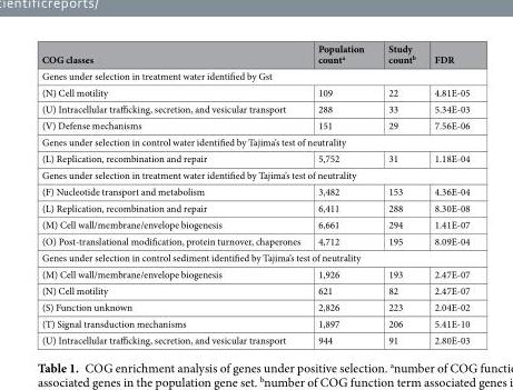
<table><thead><tr><td>COG classes</td><td>Population count<sup>a</sup></td><td>Study count<sup>b</sup></td><td>FDR</td></tr></thead><tbody><tr><td colspan="4">Genes under selection in treatment water identified by Gst</td></tr><tr><td>(N) Cell motility</td><td>109</td><td>22</td><td>4.81E-05</td></tr><tr><td>(U) Intracellular trafficking, secretion, and vesicular transport</td><td>288</td><td>33</td><td>5.34E-03</td></tr><tr><td>(V) Defense mechanisms</td><td>151</td><td>29</td><td>7.56E-06</td></tr><tr><td colspan="4">Genes under selection in control water identified by Tajima’s test of neutrality</td></tr><tr><td>(L) Replication, recombination and repair</td><td>5,752</td><td>31</td><td>1.18E-04</td></tr><tr><td colspan="4">Genes under selection in treatment water identified by Tajima’s test of neutrality</td></tr><tr><td>(F) Nucleotide transport and metabolism</td><td>3,482</td><td>153</td><td>4.36E-04</td></tr><tr><td>(L) Replication, recombination and repair</td><td>6,411</td><td>288</td><td>8.30E-08</td></tr><tr><td>(M) Cell wall/membrane/envelope biogenesis</td><td>6,661</td><td>294</td><td>1.41E-07</td></tr><tr><td>(O) Post-translational modification, protein turnover, chaperones</td><td>4,712</td><td>195</td><td>8.09E-04</td></tr><tr><td colspan="4">Genes under selection in control sediment identified by Tajima’s test of neutrality</td></tr><tr><td>(M) Cell wall/membrane/envelope biogenesis</td><td>1,926</td><td>193</td><td>2.47E-07</td></tr><tr><td>(N) Cell motility</td><td>621</td><td>82</td><td>2.47E-07</td></tr><tr><td>(S) Function unknown</td><td>2,826</td><td>223</td><td>2.04E-02</td></tr><tr><td>(T) Signal transduction mechanisms</td><td>1,897</td><td>206</td><td>5.41E-10</td></tr><tr><td>(U) Intracellular trafficking, secretion, and vesicular transport</td><td>944</td><td>91</td><td>2.80E-03</td></tr></tbody></table>